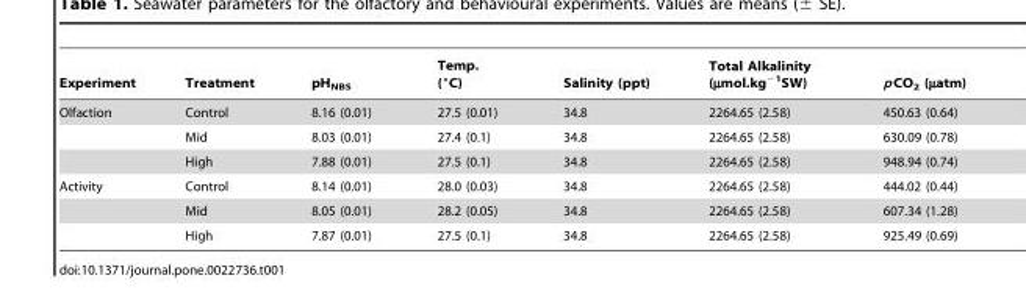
<table><thead><tr><td>Experiment</td><td>Treatment</td><td>pH<sub>NBS</sub></td><td>Temp. (°C)</td><td>Salinity (ppt)</td><td>Total Alkalinity (µmol.kg<sup>−1</sup>SW)</td><td>pCO<sub>2</sub> (µatm)</td></tr></thead><tbody><tr><td rowspan="3">Olfaction</td><td>Control</td><td>8.16 (0.01)</td><td>27.5 (0.01)</td><td>34.8</td><td>2264.65 (2.58)</td><td>450.63 (0.64)</td></tr><tr><td>Mid</td><td>8.03 (0.01)</td><td>27.4 (0.1)</td><td>34.8</td><td>2264.65 (2.58)</td><td>630.09 (0.78)</td></tr><tr><td>High</td><td>7.88 (0.01)</td><td>27.5 (0.1)</td><td>34.8</td><td>2264.65 (2.58)</td><td>948.94 (0.74)</td></tr><tr><td rowspan="3">Activity</td><td>Control</td><td>8.14 (0.01)</td><td>28.0 (0.03)</td><td>34.8</td><td>2264.65 (2.58)</td><td>444.02 (0.44)</td></tr><tr><td>Mid</td><td>8.05 (0.01)</td><td>28.2 (0.05)</td><td>34.8</td><td>2264.65 (2.58)</td><td>607.34 (1.28)</td></tr><tr><td>High</td><td>7.87 (0.01)</td><td>27.5 (0.1)</td><td>34.8</td><td>2264.65 (2.58)</td><td>925.49 (0.69)</td></tr></tbody></table>